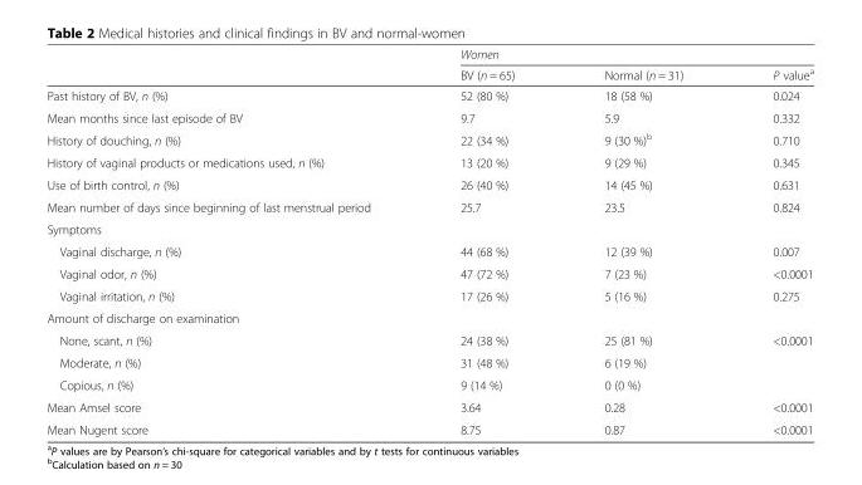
<table><thead><tr><td rowspan="2"></td><td colspan="3">Women</td></tr><tr><td>BV (n = 65)</td><td>Normal (n = 31)</td><td>P value<sup>a</sup></td></tr></thead><tbody><tr><td>Past history of BV, n (%)</td><td>52 (80 %)</td><td>18 (58 %)</td><td>0.024</td></tr><tr><td>Mean months since last episode of BV</td><td>9.7</td><td>5.9</td><td>0.332</td></tr><tr><td>History of douching, n (%)</td><td>22 (34 %)</td><td>9 (30 %)<sup>b</sup></td><td>0.710</td></tr><tr><td>History of vaginal products or medications used, n (%)</td><td>13 (20 %)</td><td>9 (29 %)</td><td>0.345</td></tr><tr><td>Use of birth control, n (%)</td><td>26 (40 %)</td><td>14 (45 %)</td><td>0.631</td></tr><tr><td>Mean number of days since beginning of last menstrual period</td><td>25.7</td><td>23.5</td><td>0.824</td></tr><tr><td colspan="4">Symptoms</td></tr><tr><td>Vaginal discharge, n (%)</td><td>44 (68 %)</td><td>12 (39 %)</td><td>0.007</td></tr><tr><td>Vaginal odor, n (%)</td><td>47 (72 %)</td><td>7 (23 %)</td><td>&lt;0.0001</td></tr><tr><td>Vaginal irritation, n (%)</td><td>17 (26 %)</td><td>5 (16 %)</td><td>0.275</td></tr><tr><td colspan="4">Amount of discharge on examination</td></tr><tr><td>None, scant, n (%)</td><td>24 (38 %)</td><td>25 (81 %)</td><td>&lt;0.0001</td></tr><tr><td>Moderate, n (%)</td><td>31 (48 %)</td><td>6 (19 %)</td><td></td></tr><tr><td>Copious, n (%)</td><td>9 (14 %)</td><td>0 (0 %)</td><td></td></tr><tr><td>Mean Amsel score</td><td>3.64</td><td>0.28</td><td>&lt;0.0001</td></tr><tr><td>Mean Nugent score</td><td>8.75</td><td>0.87</td><td>&lt;0.0001</td></tr></tbody></table>